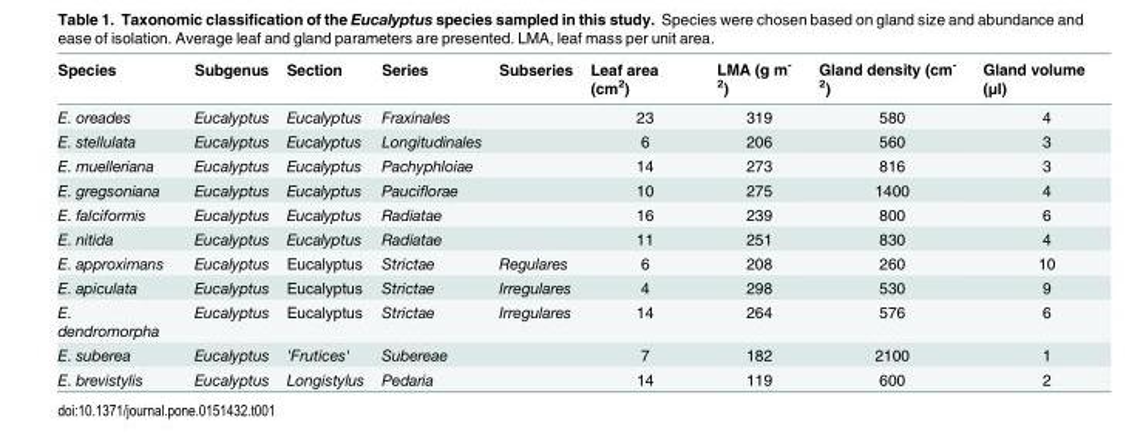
<table><thead><tr><td>Species</td><td>Subgenus</td><td>Section</td><td>Series</td><td>Subseries</td><td>Leaf area (cm<sup>2</sup>)</td><td>LMA (g m<sup>- 2</sup>)</td><td>Gland density (cm<sup>- 2</sup>)</td><td>Gland volume (μl)</td></tr></thead><tbody><tr><td>E. oreades</td><td>Eucalyptus</td><td>Eucalyptus</td><td>Fraxinales</td><td></td><td>23</td><td>319</td><td>580</td><td>4</td></tr><tr><td>E. stellulata</td><td>Eucalyptus</td><td>Eucalyptus</td><td>Longitudinales</td><td></td><td>6</td><td>206</td><td>560</td><td>3</td></tr><tr><td>E. muelleriana</td><td>Eucalyptus</td><td>Eucalyptus</td><td>Pachyphloiae</td><td></td><td>14</td><td>273</td><td>816</td><td>3</td></tr><tr><td>E. gregsoniana</td><td>Eucalyptus</td><td>Eucalyptus</td><td>Pauciflorae</td><td></td><td>10</td><td>275</td><td>1400</td><td>4</td></tr><tr><td>E. falciformis</td><td>Eucalyptus</td><td>Eucalyptus</td><td>Radiatae</td><td></td><td>16</td><td>239</td><td>800</td><td>6</td></tr><tr><td>E. nitida</td><td>Eucalyptus</td><td>Eucalyptus</td><td>Radiatae</td><td></td><td>11</td><td>251</td><td>830</td><td>4</td></tr><tr><td>E. approximans</td><td>Eucalyptus</td><td>Eucalyptus</td><td>Strictae</td><td>Regulares</td><td>6</td><td>208</td><td>260</td><td>10</td></tr><tr><td>E. apiculata</td><td>Eucalyptus</td><td>Eucalyptus</td><td>Strictae</td><td>Irregulares</td><td>4</td><td>298</td><td>530</td><td>9</td></tr><tr><td>E. dendromorpha</td><td>Eucalyptus</td><td>Eucalyptus</td><td>Strictae</td><td>Irregulares</td><td>14</td><td>264</td><td>576</td><td>6</td></tr><tr><td>E. suberea</td><td>Eucalyptus</td><td>&#x27;Frutices&#x27;</td><td>Subereae</td><td></td><td>7</td><td>182</td><td>2100</td><td>1</td></tr><tr><td>E. brevistylis</td><td>Eucalyptus</td><td>Longistylus</td><td>Pedaria</td><td></td><td>14</td><td>119</td><td>600</td><td>2</td></tr></tbody></table>